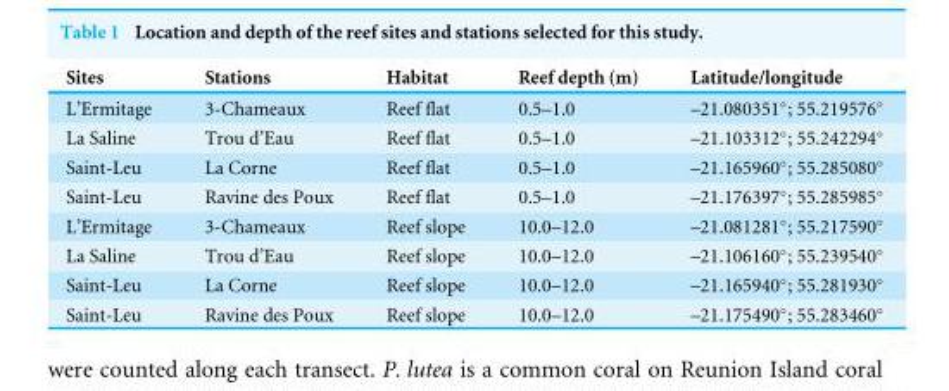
<table><thead><tr><td>Sites</td><td>Stations</td><td>Habitat</td><td>Reef depth (m)</td><td>Latitude/longitude</td></tr></thead><tbody><tr><td>L’Ermitage</td><td>3-Chameaux</td><td>Reef flat</td><td>0.5–1.0</td><td>–21.080351◦; 55.219576◦</td></tr><tr><td>La Saline</td><td>Trou d’Eau</td><td>Reef flat</td><td>0.5–1.0</td><td>–21.103312◦; 55.242294◦</td></tr><tr><td>Saint-Leu</td><td>La Corne</td><td>Reef flat</td><td>0.5–1.0</td><td>–21.165960◦; 55.285080◦</td></tr><tr><td>Saint-Leu</td><td>Ravine des Poux</td><td>Reef flat</td><td>0.5–1.0</td><td>–21.176397◦; 55.285985◦</td></tr><tr><td>L’Ermitage</td><td>3-Chameaux</td><td>Reef slope</td><td>10.0–12.0</td><td>–21.081281◦; 55.217590◦</td></tr><tr><td>La Saline</td><td>Trou d’Eau</td><td>Reef slope</td><td>10.0–12.0</td><td>–21.106160◦; 55.239540◦</td></tr><tr><td>Saint-Leu</td><td>La Corne</td><td>Reef slope</td><td>10.0–12.0</td><td>–21.165940◦; 55.281930◦</td></tr><tr><td>Saint-Leu</td><td>Ravine des Poux</td><td>Reef slope</td><td>10.0–12.0</td><td>–21.175490◦; 55.283460◦</td></tr></tbody></table>